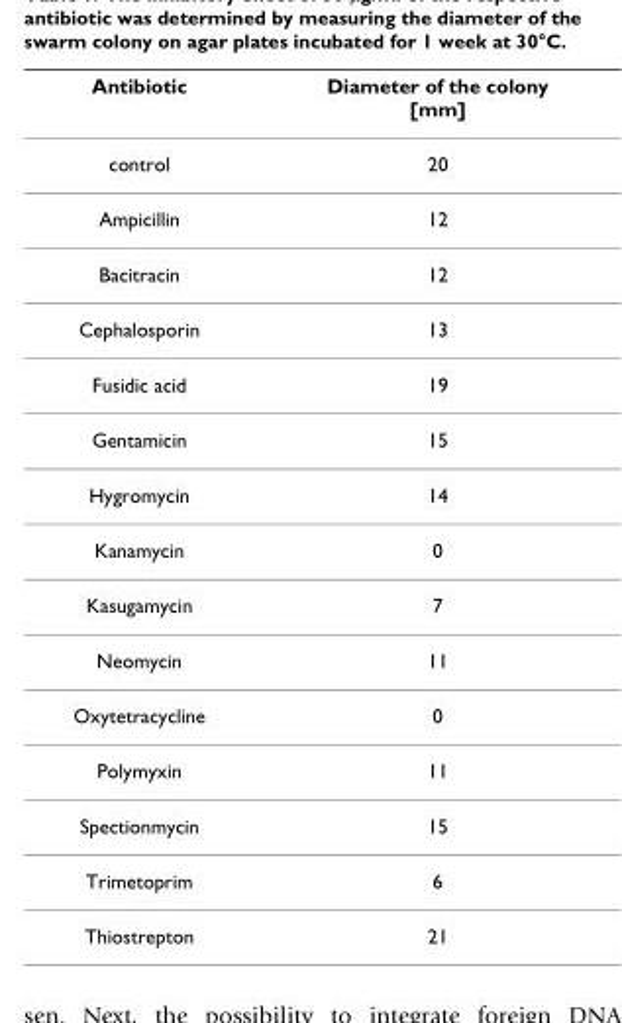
<table><thead><tr><td>Antibiotic</td><td>Diameter of the colony [mm]</td></tr></thead><tbody><tr><td>control</td><td>20</td></tr><tr><td>Ampicillin</td><td>12</td></tr><tr><td>Bacitracin</td><td>12</td></tr><tr><td>Cephalosporin</td><td>13</td></tr><tr><td>Fusidic acid</td><td>19</td></tr><tr><td>Gentamicin</td><td>15</td></tr><tr><td>Hygromycin</td><td>14</td></tr><tr><td>Kanamycin</td><td>0</td></tr><tr><td>Kasugamycin</td><td>7</td></tr><tr><td>Neomycin</td><td>11</td></tr><tr><td>Oxytetracycline</td><td>0</td></tr><tr><td>Polymyxin</td><td>11</td></tr><tr><td>Spectionmycin</td><td>15</td></tr><tr><td>Trimetoprim</td><td>6</td></tr><tr><td>Thiostrepton</td><td>21</td></tr></tbody></table>